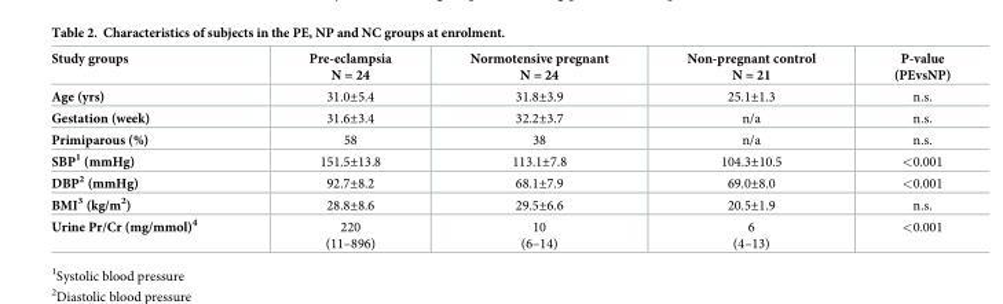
<table><thead><tr><td>Study groups</td><td>Pre-eclampsia N = 24</td><td>Normotensive pregnant N = 24</td><td>Non-pregnant control N = 21</td><td>P-value (PEvsNP)</td></tr></thead><tbody><tr><td>Age (yrs)</td><td>31.0±5.4</td><td>31.8±3.9</td><td>25.1±1.3</td><td>n.s.</td></tr><tr><td>Gestation (week)</td><td>31.6±3.4</td><td>32.2±3.7</td><td>n/a</td><td>n.s.</td></tr><tr><td>Primiparous (%)</td><td>58</td><td>38</td><td>n/a</td><td>n.s.</td></tr><tr><td>SBP<sup>1</sup> (mmHg)</td><td>151.5±13.8</td><td>113.1±7.8</td><td>104.3±10.5</td><td>&lt;0.001</td></tr><tr><td>DBP<sup>2</sup> (mmHg)</td><td>92.7±8.2</td><td>68.1±7.9</td><td>69.0±8.0</td><td>&lt;0.001</td></tr><tr><td>BMI<sup>3</sup> (kg/m<sup>2</sup>)</td><td>28.8±8.6</td><td>29.5±6.6</td><td>20.5±1.9</td><td>n.s.</td></tr><tr><td>Urine Pr/Cr (mg/mmol)<sup>4</sup></td><td>220 (11–896)</td><td>10 (6–14)</td><td>6 (4–13)</td><td>&lt;0.001</td></tr></tbody></table>